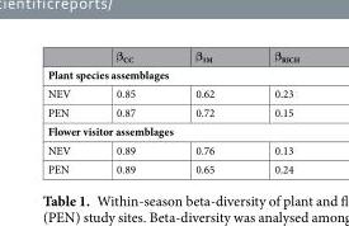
<table><thead><tr><td></td><td>β<sub>CC</sub></td><td>β<sub>3M</sub></td><td>β<sub>RICH</sub></td></tr></thead><tbody><tr><td colspan="4">Plant species assemblages</td></tr><tr><td>NEV</td><td>0.85</td><td>0.62</td><td>0.23</td></tr><tr><td>PEN</td><td>0.87</td><td>0.72</td><td>0.15</td></tr><tr><td colspan="4">Flower visitor assemblages</td></tr><tr><td>NEV</td><td>0.89</td><td>0.76</td><td>0.13</td></tr><tr><td>PEN</td><td>0.89</td><td>0.65</td><td>0.24</td></tr></tbody></table>